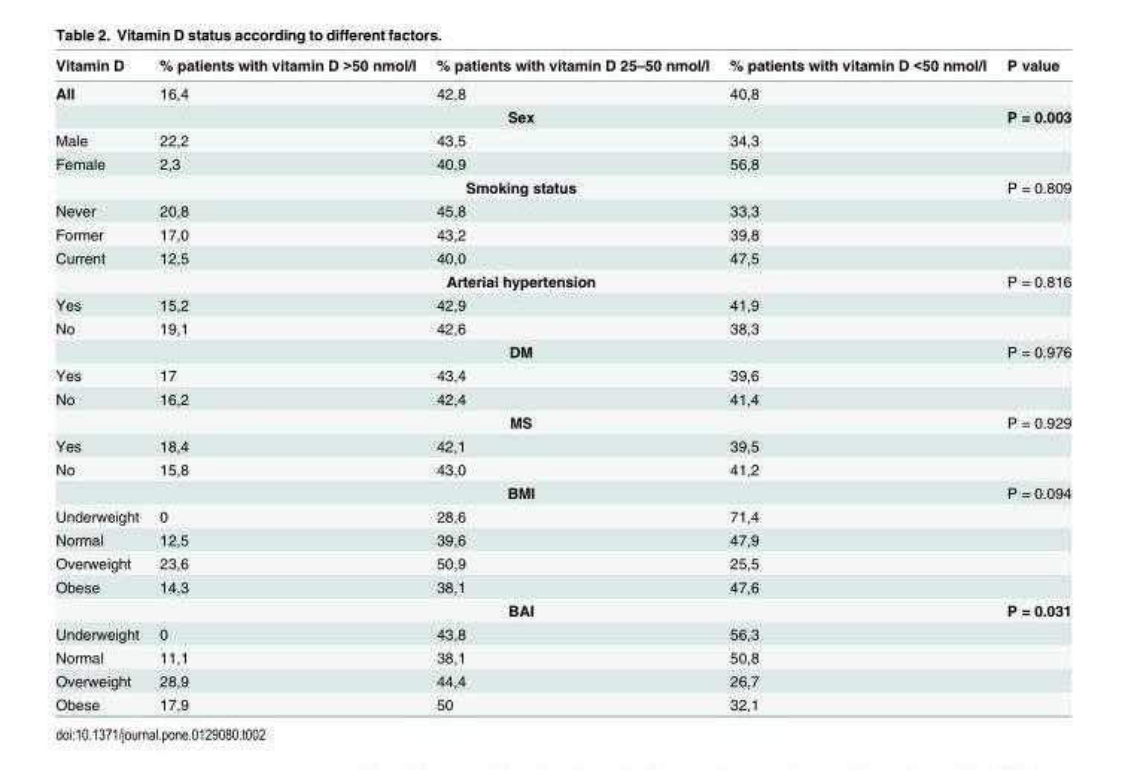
<table><thead><tr><td>Vitamin D</td><td>% patients with vitamin D &gt;50 nmol/l</td><td>% patients with vitamin D 25–50 nmol/l</td><td>% patients with vitamin D &lt;50 nmol/l</td><td>P value</td></tr></thead><tbody><tr><td>All</td><td>16,4</td><td>42,8</td><td>40,8</td><td></td></tr><tr><td colspan="4">Sex</td><td>P = 0.003</td></tr><tr><td>Male</td><td>22,2</td><td>43,5</td><td>34,3</td><td></td></tr><tr><td>Female</td><td>2,3</td><td>40,9</td><td>56,8</td><td></td></tr><tr><td colspan="4">Smoking status</td><td>P = 0.809</td></tr><tr><td>Never</td><td>20,8</td><td>45,8</td><td>33,3</td><td></td></tr><tr><td>Former</td><td>17,0</td><td>43,2</td><td>39,8</td><td></td></tr><tr><td>Current</td><td>12,5</td><td>40,0</td><td>47,5</td><td></td></tr><tr><td colspan="4">Arterial hypertension</td><td>P = 0.816</td></tr><tr><td>Yes</td><td>15,2</td><td>42,9</td><td>41,9</td><td></td></tr><tr><td>No</td><td>19,1</td><td>42,6</td><td>38,3</td><td></td></tr><tr><td colspan="4">DM</td><td>P = 0.976</td></tr><tr><td>Yes</td><td>17</td><td>43,4</td><td>39,6</td><td></td></tr><tr><td>No</td><td>16,2</td><td>42,4</td><td>41,4</td><td></td></tr><tr><td colspan="4">MS</td><td>P = 0.929</td></tr><tr><td>Yes</td><td>18,4</td><td>42,1</td><td>39,5</td><td></td></tr><tr><td>No</td><td>15,8</td><td>43,0</td><td>41,2</td><td></td></tr><tr><td colspan="4">BMI</td><td>P = 0.094</td></tr><tr><td>Underweight</td><td>0</td><td>28,6</td><td>71,4</td><td></td></tr><tr><td>Normal</td><td>12,5</td><td>39,6</td><td>47,9</td><td></td></tr><tr><td>Overweight</td><td>23,6</td><td>50,9</td><td>25,5</td><td></td></tr><tr><td>Obese</td><td>14,3</td><td>38,1</td><td>47,6</td><td></td></tr><tr><td colspan="4">BAI</td><td>P = 0.031</td></tr><tr><td>Underweight</td><td>0</td><td>43,8</td><td>56,3</td><td></td></tr><tr><td>Normal</td><td>11,1</td><td>38,1</td><td>50,8</td><td></td></tr><tr><td>Overweight</td><td>28,9</td><td>44,4</td><td>26,7</td><td></td></tr><tr><td>Obese</td><td>17,9</td><td>50</td><td>32,1</td><td></td></tr></tbody></table>